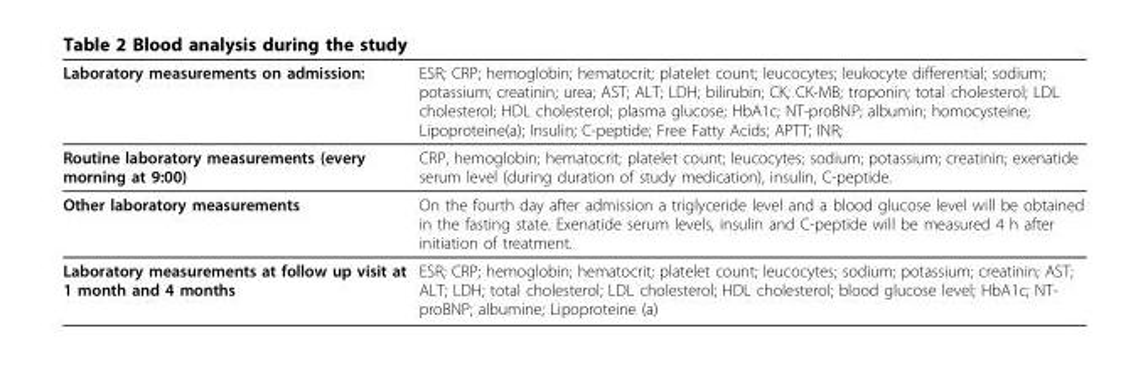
<table><thead><tr><td>Laboratory measurements on admission:</td><td>ESR; CRP; hemoglobin; hematocrit; platelet count; leucocytes; leukocyte differential; sodium; potassium; creatinin; urea; AST; ALT; LDH; bilirubin; CK; CK-MB; troponin; total cholesterol; LDL cholesterol; HDL cholesterol; plasma glucose; HbA1c; NT-proBNP; albumin; homocysteine; Lipoproteine(a); Insulin; C-peptide; Free Fatty Acids; APTT; INR;</td></tr></thead><tbody><tr><td>Routine laboratory measurements (every morning at 9:00)</td><td>CRP, hemoglobin; hematocrit; platelet count; leucocytes; sodium; potassium; creatinin; exenatide serum level (during duration of study medication), insulin, C-peptide.</td></tr><tr><td>Other laboratory measurements</td><td>On the fourth day after admission a triglyceride level and a blood glucose level will be obtained in the fasting state. Exenatide serum levels, insulin and C-peptide will be measured 4 h after initiation of treatment.</td></tr><tr><td>Laboratory measurements at follow up visit at 1 month and 4 months</td><td>ESR; CRP; hemoglobin; hematocrit; platelet count; leucocytes; sodium; potassium; creatinin; AST; ALT; LDH; total cholesterol; LDL cholesterol; HDL cholesterol; blood glucose level; HbA1c; NT- proBNP; albumine; Lipoproteine (a)</td></tr></tbody></table>